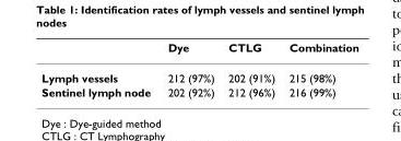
<table><thead><tr><td></td><td>Dye</td><td>CTLG</td><td>Combination</td></tr></thead><tbody><tr><td>Lymph vessels</td><td>212 (97%)</td><td>202 (91%)</td><td>215 (98%)</td></tr><tr><td>Sentinel lymph node</td><td>202 (92%)</td><td>212 (96%)</td><td>216 (99%)</td></tr></tbody></table>